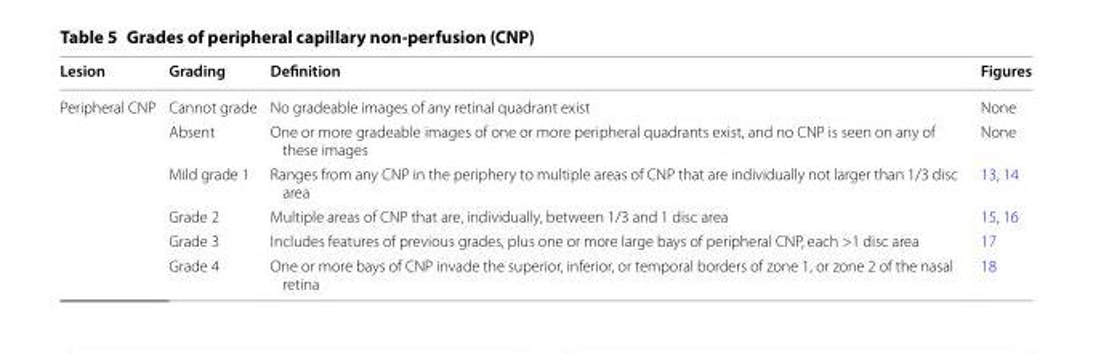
<table><thead><tr><td>Lesion</td><td>Grading</td><td>Definition</td><td>Figures</td></tr></thead><tbody><tr><td rowspan="6">Peripheral CNP</td><td>Cannot grade</td><td>No gradeable images of any retinal quadrant exist</td><td>None</td></tr><tr><td>Absent</td><td>One or more gradeable images of one or more peripheral quadrants exist, and no CNP is seen on any of these images</td><td>None</td></tr><tr><td>Mild grade 1</td><td>Ranges from any CNP in the periphery to multiple areas of CNP that are individually not larger than 1/3 disc area</td><td>13, 14</td></tr><tr><td>Grade 2</td><td>Multiple areas of CNP that are, individually, between 1/3 and 1 disc area</td><td>15, 16</td></tr><tr><td>Grade 3</td><td>Includes features of previous grades, plus one or more large bays of peripheral CNP, each &gt;1 disc area</td><td>17</td></tr><tr><td>Grade 4</td><td>One or more bays of CNP invade the superior, inferior, or temporal borders of zone 1, or zone 2 of the nasal retina</td><td>18</td></tr></tbody></table>